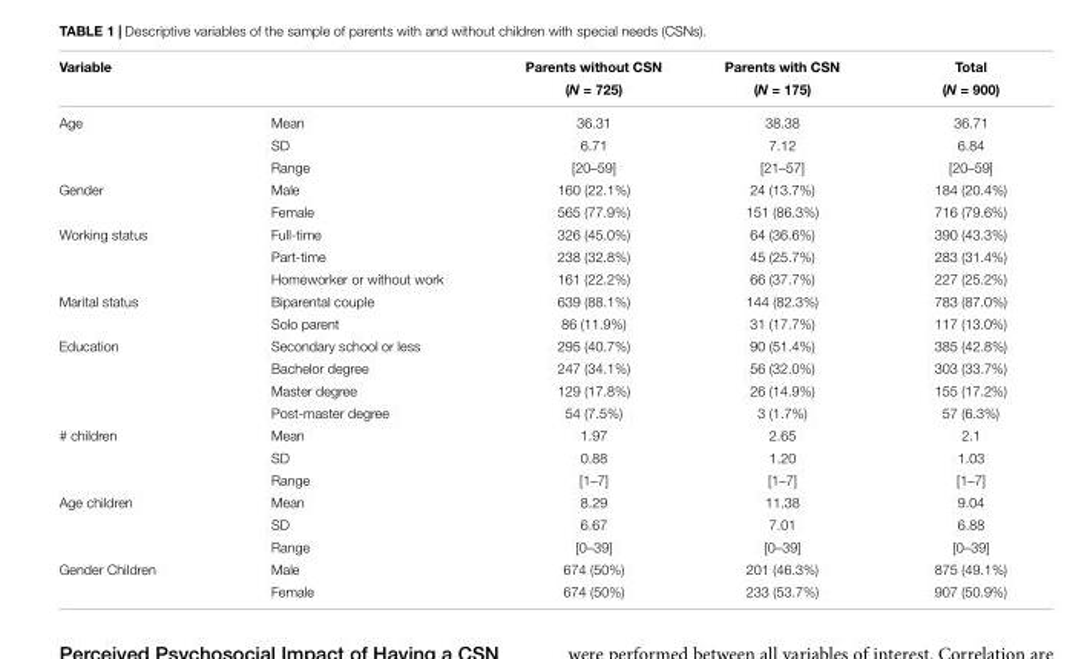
<table><thead><tr><td colspan="2">Variable</td><td rowspan="2">Parents without CSN (N = 725)</td><td rowspan="2">Parents with CSN (N = 175)</td><td rowspan="2">Total (N = 900)</td></tr><tr><td></td><td></td></tr></thead><tbody><tr><td rowspan="3">Age</td><td>Mean</td><td>36.31</td><td>38.38</td><td>36.71</td></tr><tr><td>SD</td><td>6.71</td><td>7.12</td><td>6.84</td></tr><tr><td>Range</td><td>[20–59]</td><td>[21–57]</td><td>[20–59]</td></tr><tr><td rowspan="2">Gender</td><td>Male</td><td>160 (22.1%)</td><td>24 (13.7%)</td><td>184 (20.4%)</td></tr><tr><td>Female</td><td>565 (77.9%)</td><td>151 (86.3%)</td><td>716 (79.6%)</td></tr><tr><td rowspan="3">Working status</td><td>Full-time</td><td>326 (45.0%)</td><td>64 (36.6%)</td><td>390 (43.3%)</td></tr><tr><td>Part-time</td><td>238 (32.8%)</td><td>45 (25.7%)</td><td>283 (31.4%)</td></tr><tr><td>Homeworker or without work</td><td>161 (22.2%)</td><td>66 (37.7%)</td><td>227 (25.2%)</td></tr><tr><td rowspan="2">Marital status</td><td>Biparental couple</td><td>639 (88.1%)</td><td>144 (82.3%)</td><td>783 (87.0%)</td></tr><tr><td>Solo parent</td><td>86 (11.9%)</td><td>31 (17.7%)</td><td>117 (13.0%)</td></tr><tr><td rowspan="4">Education</td><td>Secondary school or less</td><td>295 (40.7%)</td><td>90 (51.4%)</td><td>385 (42.8%)</td></tr><tr><td>Bachelor degree</td><td>247 (34.1%)</td><td>56 (32.0%)</td><td>303 (33.7%)</td></tr><tr><td>Master degree</td><td>129 (17.8%)</td><td>26 (14.9%)</td><td>155 (17.2%)</td></tr><tr><td>Post-master degree</td><td>54 (7.5%)</td><td>3 (1.7%)</td><td>57 (6.3%)</td></tr><tr><td rowspan="3"># children</td><td>Mean</td><td>1.97</td><td>2.65</td><td>2.1</td></tr><tr><td>SD</td><td>0.88</td><td>1.20</td><td>1.03</td></tr><tr><td>Range</td><td>[1–7]</td><td>[1–7]</td><td>[1–7]</td></tr><tr><td rowspan="3">Age children</td><td>Mean</td><td>8.29</td><td>11.38</td><td>9.04</td></tr><tr><td>SD</td><td>6.67</td><td>7.01</td><td>6.88</td></tr><tr><td>Range</td><td>[0–39]</td><td>[0–39]</td><td>[0–39]</td></tr><tr><td rowspan="2">Gender Children</td><td>Male</td><td>674 (50%)</td><td>201 (46.3%)</td><td>875 (49.1%)</td></tr><tr><td>Female</td><td>674 (50%)</td><td>233 (53.7%)</td><td>907 (50.9%)</td></tr></tbody></table>